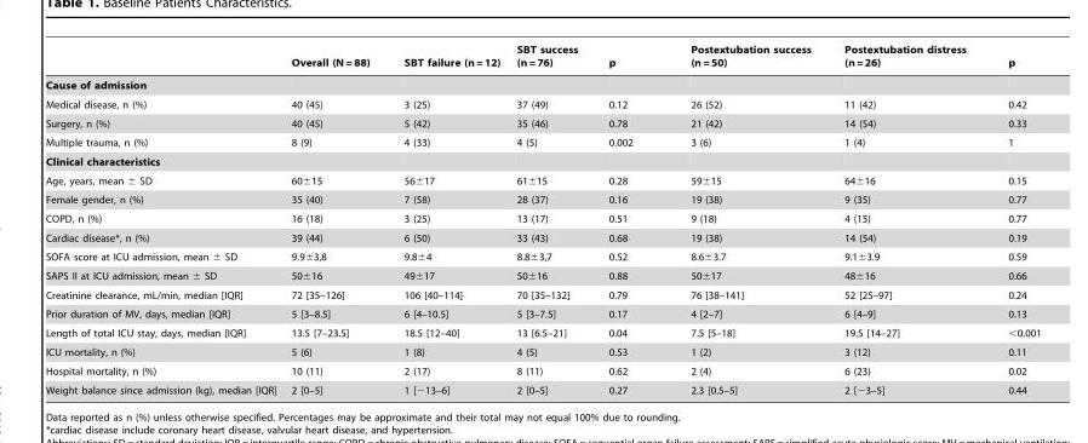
<table><thead><tr><td></td><td>Overall (N = 88)</td><td>SBT failure (n = 12)</td><td>SBT success (n = 76)</td><td>p</td><td>Postextubation success (n = 50)</td><td>Postextubation distress (n = 26)</td><td>p</td></tr></thead><tbody><tr><td colspan="8">Cause of admission</td></tr><tr><td>Medical disease, n (%)</td><td>40 (45)</td><td>3 (25)</td><td>37 (49)</td><td>0.12</td><td>26 (52)</td><td>11 (42)</td><td>0.42</td></tr><tr><td>Surgery, n (%)</td><td>40 (45)</td><td>5 (42)</td><td>35 (46)</td><td>0.78</td><td>21 (42)</td><td>14 (54)</td><td>0.33</td></tr><tr><td>Multiple trauma, n (%)</td><td>8 (9)</td><td>4 (33)</td><td>4 (5)</td><td>0.002</td><td>3 (6)</td><td>1 (4)</td><td>1</td></tr><tr><td colspan="8">Clinical characteristics</td></tr><tr><td>Age, years, mean ± SD</td><td>60±15</td><td>56±17</td><td>61±15</td><td>0.28</td><td>59±15</td><td>64±16</td><td>0.15</td></tr><tr><td>Female gender, n (%)</td><td>35 (40)</td><td>7 (58)</td><td>28 (37)</td><td>0.16</td><td>19 (38)</td><td>9 (35)</td><td>0.77</td></tr><tr><td>COPD, n (%)</td><td>16 (18)</td><td>3 (25)</td><td>13 (17)</td><td>0.51</td><td>9 (18)</td><td>4 (15)</td><td>0.77</td></tr><tr><td>Cardiac disease*, n (%)</td><td>39 (44)</td><td>6 (50)</td><td>33 (43)</td><td>0.68</td><td>19 (38)</td><td>14 (54)</td><td>0.19</td></tr><tr><td>SOFA score at ICU admission, mean ± SD</td><td>9.9±3,8</td><td>9.8±4</td><td>8.8±3,7</td><td>0.52</td><td>8.6±3.7</td><td>9.1±3.9</td><td>0.59</td></tr><tr><td>SAPS II at ICU admission, mean ± SD</td><td>50±16</td><td>49±17</td><td>50±16</td><td>0.88</td><td>50±17</td><td>48±16</td><td>0.66</td></tr><tr><td>Creatinine clearance, mL/min, median [IQR]</td><td>72 [35–126]</td><td>106 [40–114]</td><td>70 [35–132]</td><td>0.79</td><td>76 [38–141]</td><td>52 [25–97]</td><td>0.24</td></tr><tr><td>Prior duration of MV, days, median [IQR]</td><td>5 [3–8.5]</td><td>6 [4–10.5]</td><td>5 [3–7.5]</td><td>0.17</td><td>4 [2–7]</td><td>6 [4–9]</td><td>0.13</td></tr><tr><td>Length of total ICU stay, days, median [IQR]</td><td>13.5 [7–23.5]</td><td>18.5 [12–40]</td><td>13 [6.5–21]</td><td>0.04</td><td>7.5 [5–18]</td><td>19.5 [14–27]</td><td>&lt;0.001</td></tr><tr><td>ICU mortality, n (%)</td><td>5 (6)</td><td>1 (8)</td><td>4 (5)</td><td>0.53</td><td>1 (2)</td><td>3 (12)</td><td>0.11</td></tr><tr><td>Hospital mortality, n (%)</td><td>10 (11)</td><td>2 (17)</td><td>8 (11)</td><td>0.62</td><td>2 (4)</td><td>6 (23)</td><td>0.02</td></tr><tr><td>Weight balance since admission (kg), median [IQR]</td><td>2 [0–5]</td><td>1 [−13–6]</td><td>2 [0–5]</td><td>0.27</td><td>2.3 [0.5–5]</td><td>2 [−3–5]</td><td>0.44</td></tr></tbody></table>